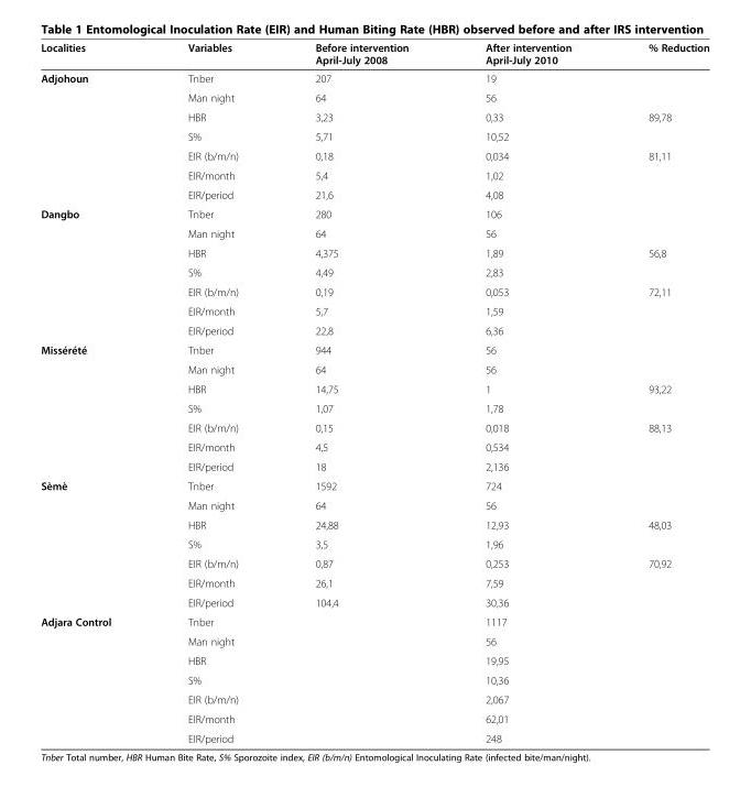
<table><thead><tr><td>Localities</td><td>Variables</td><td>Before intervention April-July 2008</td><td>After intervention April-July 2010</td><td>% Reduction</td></tr></thead><tbody><tr><td rowspan="7">Adjohoun</td><td>Tnber</td><td>207</td><td>19</td><td></td></tr><tr><td>Man night</td><td>64</td><td>56</td><td></td></tr><tr><td>HBR</td><td>3,23</td><td>0,33</td><td>89,78</td></tr><tr><td>S%</td><td>5,71</td><td>10,52</td><td></td></tr><tr><td>EIR (b/m/n)</td><td>0,18</td><td>0,034</td><td>81,11</td></tr><tr><td>EIR/month</td><td>5,4</td><td>1,02</td><td></td></tr><tr><td>EIR/period</td><td>21,6</td><td>4,08</td><td></td></tr><tr><td rowspan="7">Dangbo</td><td>Tnber</td><td>280</td><td>106</td><td></td></tr><tr><td>Man night</td><td>64</td><td>56</td><td></td></tr><tr><td>HBR</td><td>4,375</td><td>1,89</td><td>56,8</td></tr><tr><td>S%</td><td>4,49</td><td>2,83</td><td></td></tr><tr><td>EIR (b/m/n)</td><td>0,19</td><td>0,053</td><td>72,11</td></tr><tr><td>EIR/month</td><td>5,7</td><td>1,59</td><td></td></tr><tr><td>EIR/period</td><td>22,8</td><td>6,36</td><td></td></tr><tr><td rowspan="7">Missérété</td><td>Tnber</td><td>944</td><td>56</td><td></td></tr><tr><td>Man night</td><td>64</td><td>56</td><td></td></tr><tr><td>HBR</td><td>14,75</td><td>1</td><td>93,22</td></tr><tr><td>S%</td><td>1,07</td><td>1,78</td><td></td></tr><tr><td>EIR (b/m/n)</td><td>0,15</td><td>0,018</td><td>88,13</td></tr><tr><td>EIR/month</td><td>4,5</td><td>0,534</td><td></td></tr><tr><td>EIR/period</td><td>18</td><td>2,136</td><td></td></tr><tr><td rowspan="7">Sèmè</td><td>Tnber</td><td>1592</td><td>724</td><td></td></tr><tr><td>Man night</td><td>64</td><td>56</td><td></td></tr><tr><td>HBR</td><td>24,88</td><td>12,93</td><td>48,03</td></tr><tr><td>S%</td><td>3,5</td><td>1,96</td><td></td></tr><tr><td>EIR (b/m/n)</td><td>0,87</td><td>0,253</td><td>70,92</td></tr><tr><td>EIR/month</td><td>26,1</td><td>7,59</td><td></td></tr><tr><td>EIR/period</td><td>104,4</td><td>30,36</td><td></td></tr><tr><td rowspan="7">Adjara Control</td><td>Tnber</td><td></td><td>1117</td><td></td></tr><tr><td>Man night</td><td></td><td>56</td><td></td></tr><tr><td>HBR</td><td></td><td>19,95</td><td></td></tr><tr><td>S%</td><td></td><td>10,36</td><td></td></tr><tr><td>EIR (b/m/n)</td><td></td><td>2,067</td><td></td></tr><tr><td>EIR/month</td><td></td><td>62,01</td><td></td></tr><tr><td>EIR/period</td><td></td><td>248</td><td></td></tr></tbody></table>